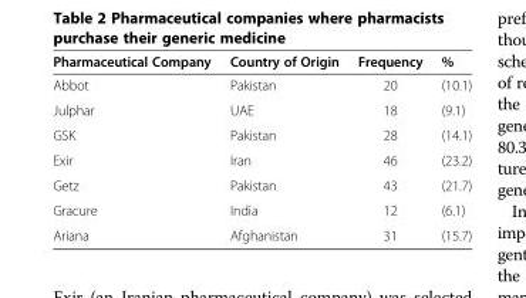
<table><thead><tr><td>Pharmaceutical Company</td><td>Country of Origin</td><td>Frequency</td><td>%</td></tr></thead><tbody><tr><td>Abbot</td><td>Pakistan</td><td>20</td><td>(10.1)</td></tr><tr><td>Julphar</td><td>UAE</td><td>18</td><td>(9.1)</td></tr><tr><td>GSK</td><td>Pakistan</td><td>28</td><td>(14.1)</td></tr><tr><td>Exir</td><td>Iran</td><td>46</td><td>(23.2)</td></tr><tr><td>Getz</td><td>Pakistan</td><td>43</td><td>(21.7)</td></tr><tr><td>Gracure</td><td>India</td><td>12</td><td>(6.1)</td></tr><tr><td>Ariana</td><td>Afghanistan</td><td>31</td><td>(15.7)</td></tr></tbody></table>